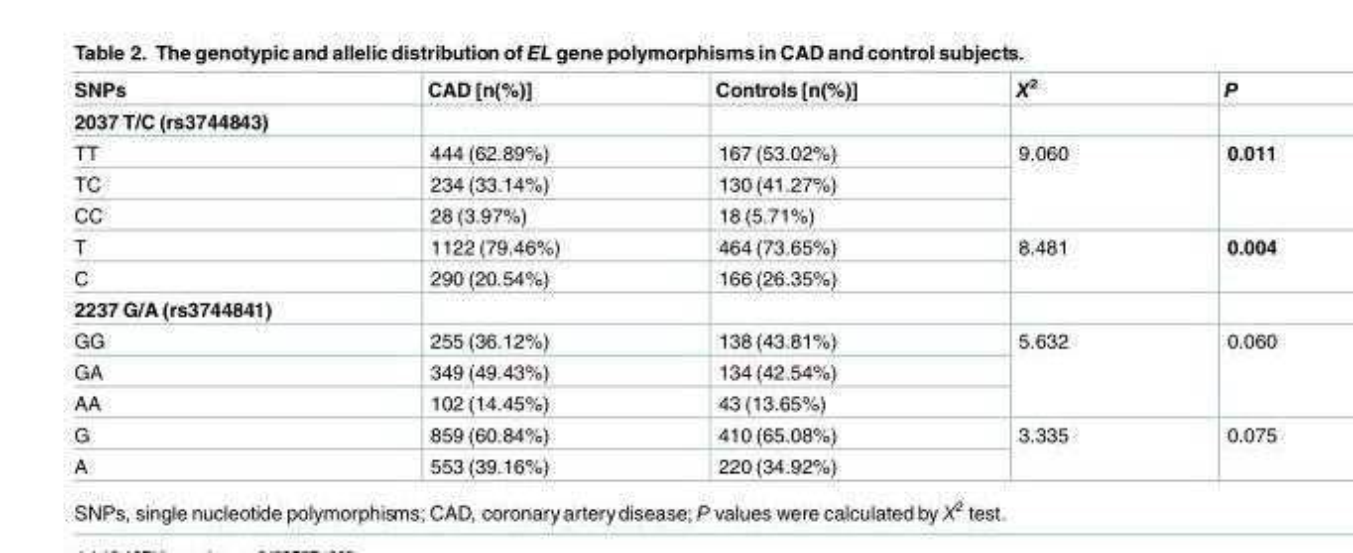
<table><thead><tr><td>SNPs</td><td>CAD [n(%)]</td><td>Controls [n(%)]</td><td>X<sup>2</sup></td><td>P</td></tr></thead><tbody><tr><td colspan="5">2037 T/C (rs3744843)</td></tr><tr><td>TT</td><td>444 (62.89%)</td><td>167 (53.02%)</td><td rowspan="3">9.060</td><td rowspan="3">0.011</td></tr><tr><td>TC</td><td>234 (33.14%)</td><td>130 (41.27%)</td></tr><tr><td>CC</td><td>28 (3.97%)</td><td>18 (5.71%)</td></tr><tr><td>T</td><td>1122 (79.46%)</td><td>464 (73.65%)</td><td rowspan="2">8.481</td><td rowspan="2">0.004</td></tr><tr><td>C</td><td>290 (20.54%)</td><td>166 (26.35%)</td></tr><tr><td colspan="5">2237 G/A (rs3744841)</td></tr><tr><td>GG</td><td>255 (36.12%)</td><td>138 (43.81%)</td><td rowspan="3">5.632</td><td rowspan="3">0.060</td></tr><tr><td>GA</td><td>349 (49.43%)</td><td>134 (42.54%)</td></tr><tr><td>AA</td><td>102 (14.45%)</td><td>43 (13.65%)</td></tr><tr><td>G</td><td>859 (60.84%)</td><td>410 (65.08%)</td><td rowspan="2">3.335</td><td rowspan="2">0.075</td></tr><tr><td>A</td><td>553 (39.16%)</td><td>220 (34.92%)</td></tr></tbody></table>